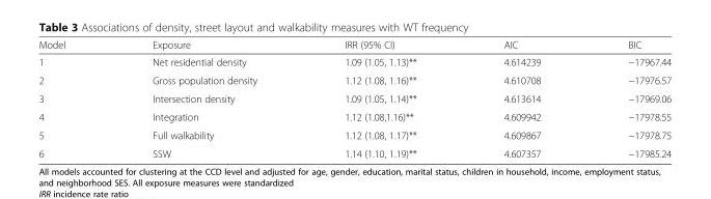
<table><thead><tr><td>Model</td><td>Exposure</td><td>IRR (95% CI)</td><td>AIC</td><td>BIC</td></tr></thead><tbody><tr><td>1</td><td>Net residential density</td><td>1.09 (1.05, 1.13)**</td><td>4.614239</td><td>−17967.44</td></tr><tr><td>2</td><td>Gross population density</td><td>1.12 (1.08, 1.16)**</td><td>4.610708</td><td>−17976.57</td></tr><tr><td>3</td><td>Intersection density</td><td>1.09 (1.05, 1.14)**</td><td>4.613614</td><td>−17969.06</td></tr><tr><td>4</td><td>Integration</td><td>1.12 (1.08,1.16)**</td><td>4.609942</td><td>−17978.55</td></tr><tr><td>5</td><td>Full walkability</td><td>1.12 (1.08, 1.17)**</td><td>4.609867</td><td>−17978.75</td></tr><tr><td>6</td><td>SSW</td><td>1.14 (1.10, 1.19)**</td><td>4.607357</td><td>−17985.24</td></tr></tbody></table>